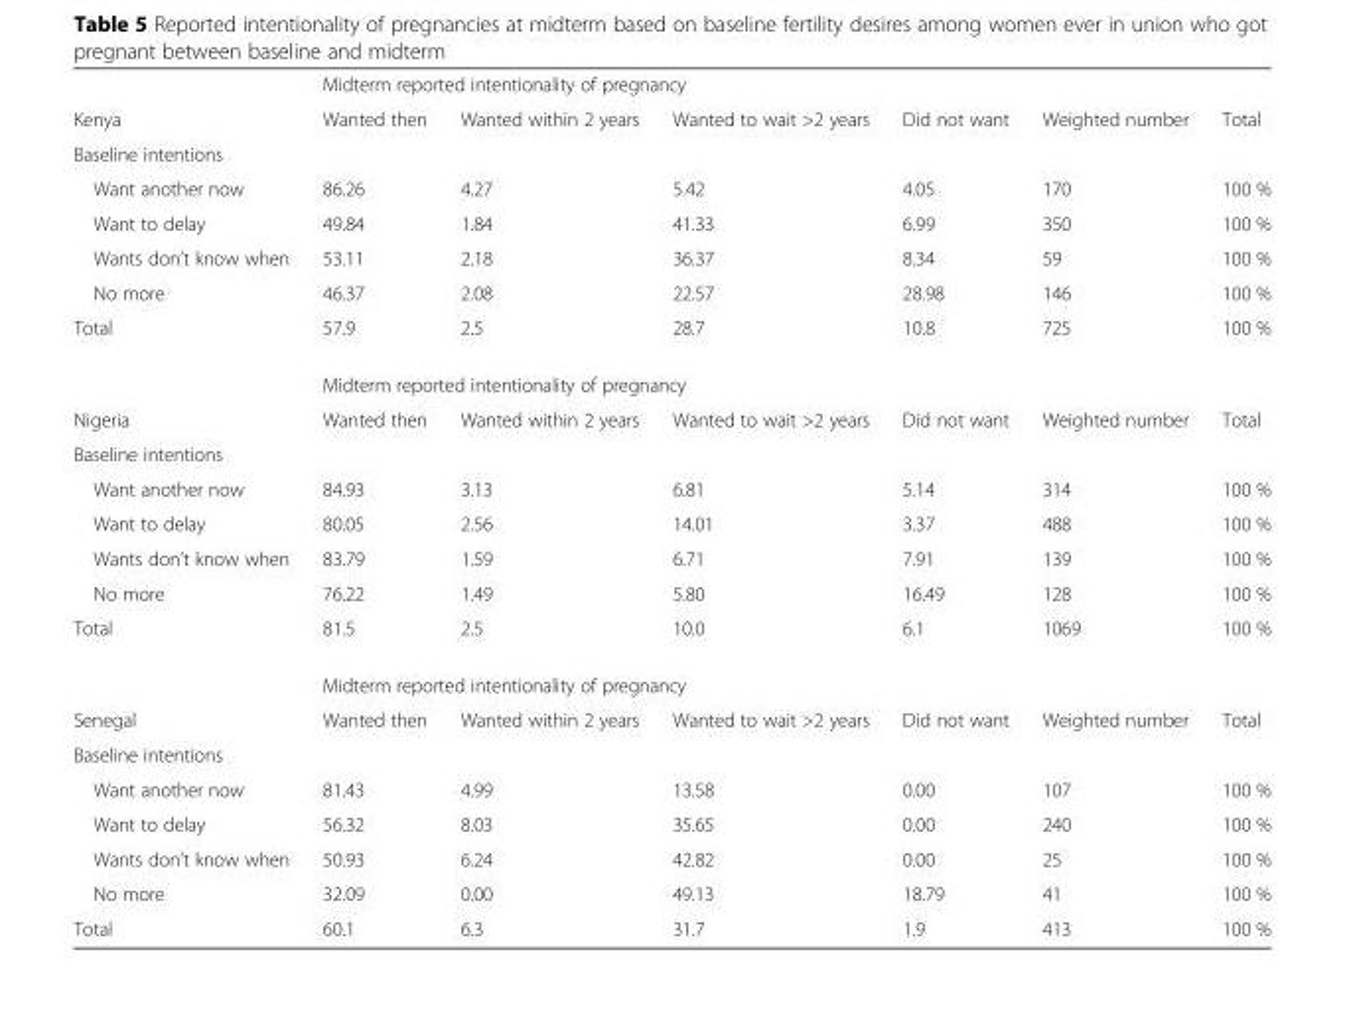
<table><thead><tr><td rowspan="2">Kenya</td><td colspan="6">Midterm reported intentionality of pregnancy</td></tr><tr><td>Wanted then</td><td>Wanted within 2 years</td><td>Wanted to wait &gt;2 years</td><td>Did not want</td><td>Weighted number</td><td>Total</td></tr></thead><tbody><tr><td colspan="7">Baseline intentions</td></tr><tr><td>Want another now</td><td>86.26</td><td>4.27</td><td>5.42</td><td>4.05</td><td>170</td><td>100 %</td></tr><tr><td>Want to delay</td><td>49.84</td><td>1.84</td><td>41.33</td><td>6.99</td><td>350</td><td>100 %</td></tr><tr><td>Wants don’t know when</td><td>53.11</td><td>2.18</td><td>36.37</td><td>8.34</td><td>59</td><td>100 %</td></tr><tr><td>No more</td><td>46.37</td><td>2.08</td><td>22.57</td><td>28.98</td><td>146</td><td>100 %</td></tr><tr><td rowspan="2">Total</td><td>57.9</td><td>2.5</td><td>28.7</td><td>10.8</td><td>725</td><td>100 %</td></tr><tr><td colspan="6">Midterm reported intentionality of pregnancy</td></tr><tr><td>Nigeria</td><td>Wanted then</td><td>Wanted within 2 years</td><td>Wanted to wait &gt;2 years</td><td>Did not want</td><td>Weighted number</td><td>Total</td></tr><tr><td colspan="7">Baseline intentions</td></tr><tr><td>Want another now</td><td>84.93</td><td>3.13</td><td>6.81</td><td>5.14</td><td>314</td><td>100 %</td></tr><tr><td>Want to delay</td><td>80.05</td><td>2.56</td><td>14.01</td><td>3.37</td><td>488</td><td>100 %</td></tr><tr><td>Wants don’t know when</td><td>83.79</td><td>1.59</td><td>6.71</td><td>7.91</td><td>139</td><td>100 %</td></tr><tr><td>No more</td><td>76.22</td><td>1.49</td><td>5.80</td><td>16.49</td><td>128</td><td>100 %</td></tr><tr><td rowspan="2">Total</td><td>81.5</td><td>2.5</td><td>10.0</td><td>6.1</td><td>1069</td><td>100 %</td></tr><tr><td colspan="4">Midterm reported intentionality of pregnancy</td><td></td><td></td></tr><tr><td>Senegal</td><td>Wanted then</td><td>Wanted within 2 years</td><td>Wanted to wait &gt;2 years</td><td>Did not want</td><td>Weighted number</td><td>Total</td></tr><tr><td colspan="7">Baseline intentions</td></tr><tr><td>Want another now</td><td>81.43</td><td>4.99</td><td>13.58</td><td>0.00</td><td>107</td><td>100 %</td></tr><tr><td>Want to delay</td><td>56.32</td><td>8.03</td><td>35.65</td><td>0.00</td><td>240</td><td>100 %</td></tr><tr><td>Wants don’t know when</td><td>50.93</td><td>6.24</td><td>42.82</td><td>0.00</td><td>25</td><td>100 %</td></tr><tr><td>No more</td><td>32.09</td><td>0.00</td><td>49.13</td><td>18.79</td><td>41</td><td>100 %</td></tr><tr><td>Total</td><td>60.1</td><td>6.3</td><td>31.7</td><td>1.9</td><td>413</td><td>100 %</td></tr></tbody></table>